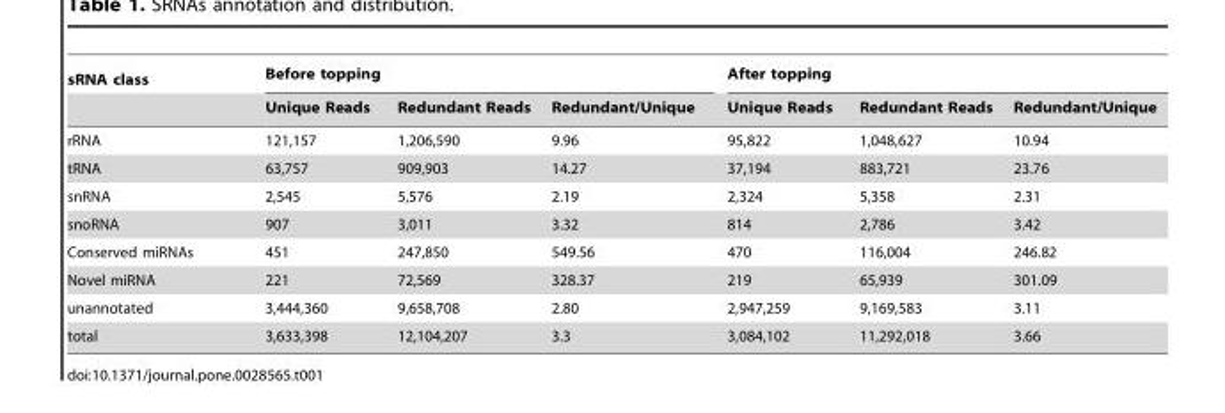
<table><thead><tr><td rowspan="2">sRNA class</td><td colspan="3">Before topping</td><td colspan="3">After topping</td></tr><tr><td>Unique Reads</td><td>Redundant Reads</td><td>Redundant/Unique</td><td>Unique Reads</td><td>Redundant Reads</td><td>Redundant/Unique</td></tr></thead><tbody><tr><td>rRNA</td><td>121,157</td><td>1,206,590</td><td>9.96</td><td>95,822</td><td>1,048,627</td><td>10.94</td></tr><tr><td>tRNA</td><td>63,757</td><td>909,903</td><td>14.27</td><td>37,194</td><td>883,721</td><td>23.76</td></tr><tr><td>snRNA</td><td>2,545</td><td>5,576</td><td>2.19</td><td>2,324</td><td>5,358</td><td>2.31</td></tr><tr><td>snoRNA</td><td>907</td><td>3,011</td><td>3.32</td><td>814</td><td>2,786</td><td>3.42</td></tr><tr><td>Conserved miRNAs</td><td>451</td><td>247,850</td><td>549.56</td><td>470</td><td>116,004</td><td>246.82</td></tr><tr><td>Novel miRNA</td><td>221</td><td>72,569</td><td>328.37</td><td>219</td><td>65,939</td><td>301.09</td></tr><tr><td>unannotated</td><td>3,444,360</td><td>9,658,708</td><td>2.80</td><td>2,947,259</td><td>9,169,583</td><td>3.11</td></tr><tr><td>total</td><td>3,633,398</td><td>12,104,207</td><td>3.3</td><td>3,084,102</td><td>11,292,018</td><td>3.66</td></tr></tbody></table>